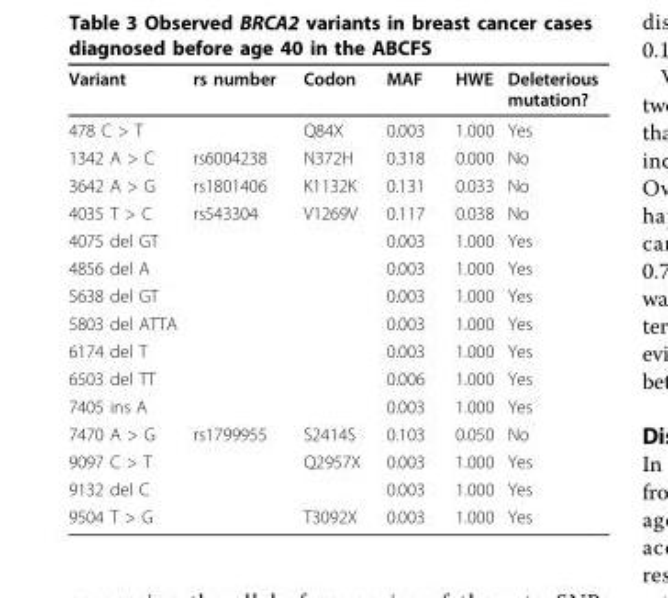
<table><thead><tr><td>Variant</td><td>rs number</td><td>Codon</td><td>MAF</td><td>HWE</td><td>Deleterious mutation?</td></tr></thead><tbody><tr><td>478 C &gt; T</td><td></td><td>Q84X</td><td>0.003</td><td>1.000</td><td>Yes</td></tr><tr><td>1342 A &gt; C</td><td>rs6004238</td><td>N372H</td><td>0.318</td><td>0.000</td><td>No</td></tr><tr><td>3642 A &gt; G</td><td>rs1801406</td><td>K1132K</td><td>0.131</td><td>0.033</td><td>No</td></tr><tr><td>4035 T &gt; C</td><td>rs543304</td><td>V1269V</td><td>0.117</td><td>0.038</td><td>No</td></tr><tr><td>4075 del GT</td><td></td><td></td><td>0.003</td><td>1.000</td><td>Yes</td></tr><tr><td>4856 del A</td><td></td><td></td><td>0.003</td><td>1.000</td><td>Yes</td></tr><tr><td>5638 del GT</td><td></td><td></td><td>0.003</td><td>1.000</td><td>Yes</td></tr><tr><td>5803 del ATTA</td><td></td><td></td><td>0.003</td><td>1.000</td><td>Yes</td></tr><tr><td>6174 del T</td><td></td><td></td><td>0.003</td><td>1.000</td><td>Yes</td></tr><tr><td>6503 del TT</td><td></td><td></td><td>0.006</td><td>1.000</td><td>Yes</td></tr><tr><td>7405 ins A</td><td></td><td></td><td>0.003</td><td>1.000</td><td>Yes</td></tr><tr><td>7470 A &gt; G</td><td>rs1799955</td><td>S2414S</td><td>0.103</td><td>0.050</td><td>No</td></tr><tr><td>9097 C &gt; T</td><td></td><td>Q2957X</td><td>0.003</td><td>1.000</td><td>Yes</td></tr><tr><td>9132 del C</td><td></td><td></td><td>0.003</td><td>1.000</td><td>Yes</td></tr><tr><td>9504 T &gt; G</td><td></td><td>T3092X</td><td>0.003</td><td>1.000</td><td>Yes</td></tr></tbody></table>